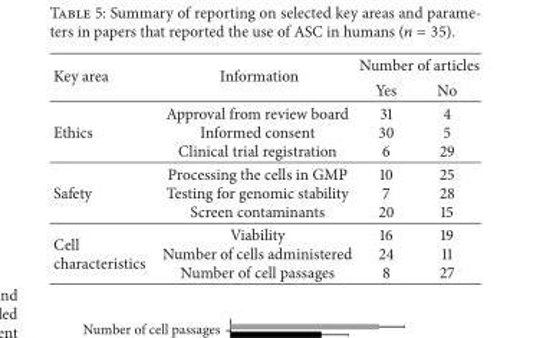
<table><thead><tr><td rowspan="2">Key area</td><td rowspan="2">Information</td><td colspan="2">Number of articles</td></tr><tr><td>Yes</td><td>No</td></tr></thead><tbody><tr><td>Ethics</td><td>Approval from review board Informed consent Clinical trial registration</td><td>31 30 6</td><td>4 5 29</td></tr><tr><td>Safety</td><td>Processing the cells in GMP Testing for genomic stability Screen contaminants</td><td>10 7 20</td><td>25 28 15</td></tr><tr><td>Cell characteristics</td><td>Viability Number of cells administered Number of cell passages</td><td>16 24 8</td><td>19 11 27</td></tr></tbody></table>